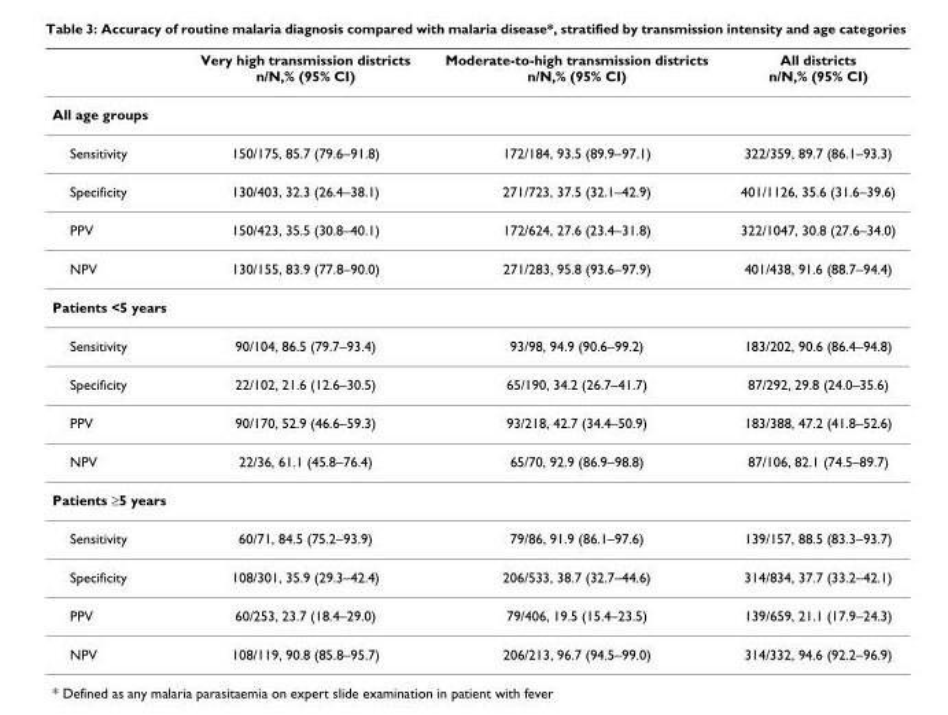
<table><thead><tr><td></td><td>Very high transmission districts n/N,% (95% CI)</td><td>Moderate-to-high transmission districts n/N,% (95% CI)</td><td>All districts n/N,% (95% CI)</td></tr></thead><tbody><tr><td colspan="4">All age groups</td></tr><tr><td>Sensitivity</td><td>150/175, 85.7 (79.6–91.8)</td><td>172/184, 93.5 (89.9–97.1)</td><td>322/359, 89.7 (86.1–93.3)</td></tr><tr><td>Specificity</td><td>130/403, 32.3 (26.4–38.1)</td><td>271/723, 37.5 (32.1–42.9)</td><td>401/1126, 35.6 (31.6–39.6)</td></tr><tr><td>PPV</td><td>150/423, 35.5 (30.8–40.1)</td><td>172/624, 27.6 (23.4–31.8)</td><td>322/1047, 30.8 (27.6–34.0)</td></tr><tr><td>NPV</td><td>130/155, 83.9 (77.8–90.0)</td><td>271/283, 95.8 (93.6–97.9)</td><td>401/438, 91.6 (88.7–94.4)</td></tr><tr><td colspan="4">Patients &lt;5 years</td></tr><tr><td>Sensitivity</td><td>90/104, 86.5 (79.7–93.4)</td><td>93/98, 94.9 (90.6–99.2)</td><td>183/202, 90.6 (86.4–94.8)</td></tr><tr><td>Specificity</td><td>22/102, 21.6 (12.6–30.5)</td><td>65/190, 34.2 (26.7–41.7)</td><td>87/292, 29.8 (24.0–35.6)</td></tr><tr><td>PPV</td><td>90/170, 52.9 (46.6–59.3)</td><td>93/218, 42.7 (34.4–50.9)</td><td>183/388, 47.2 (41.8–52.6)</td></tr><tr><td>NPV</td><td>22/36, 61.1 (45.8–76.4)</td><td>65/70, 92.9 (86.9–98.8)</td><td>87/106, 82.1 (74.5–89.7)</td></tr><tr><td colspan="4">Patients ≥5 years</td></tr><tr><td>Sensitivity</td><td>60/71, 84.5 (75.2–93.9)</td><td>79/86, 91.9 (86.1–97.6)</td><td>139/157, 88.5 (83.3–93.7)</td></tr><tr><td>Specificity</td><td>108/301, 35.9 (29.3–42.4)</td><td>206/533, 38.7 (32.7–44.6)</td><td>314/834, 37.7 (33.2–42.1)</td></tr><tr><td>PPV</td><td>60/253, 23.7 (18.4–29.0)</td><td>79/406, 19.5 (15.4–23.5)</td><td>139/659, 21.1 (17.9–24.3)</td></tr><tr><td>NPV</td><td>108/119, 90.8 (85.8–95.7)</td><td>206/213, 96.7 (94.5–99.0)</td><td>314/332, 94.6 (92.2–96.9)</td></tr></tbody></table>